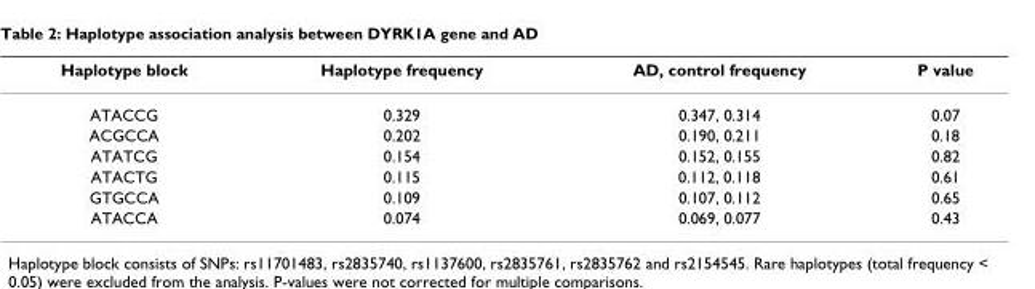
<table><thead><tr><td>Haplotype block</td><td>Haplotype frequency</td><td>AD, control frequency</td><td>P value</td></tr></thead><tbody><tr><td>ATACCG</td><td>0.329</td><td>0.347, 0.314</td><td>0.07</td></tr><tr><td>ACGCCA</td><td>0.202</td><td>0.190, 0.211</td><td>0.18</td></tr><tr><td>ATATCG</td><td>0.154</td><td>0.152, 0.155</td><td>0.82</td></tr><tr><td>ATACTG</td><td>0.115</td><td>0.112, 0.118</td><td>0.61</td></tr><tr><td>GTGCCA</td><td>0.109</td><td>0.107, 0.112</td><td>0.65</td></tr><tr><td>ATACCA</td><td>0.074</td><td>0.069, 0.077</td><td>0.43</td></tr></tbody></table>